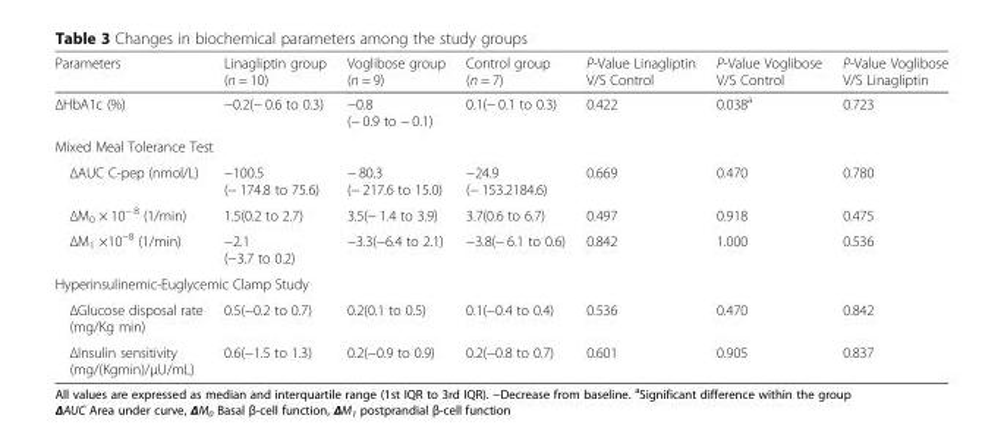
<table><thead><tr><td>Parameters</td><td>Linagliptin group (n = 10)</td><td>Voglibose group (n = 9)</td><td>Control group (n = 7)</td><td>P-Value Linagliptin V/S Control</td><td>P-Value Voglibose V/S Control</td><td>P-Value Voglibose V/S Linagliptin</td></tr></thead><tbody><tr><td>ΔHbA1c (%)</td><td>−0.2(− 0.6 to 0.3)</td><td>−0.8 (− 0.9 to − 0.1)</td><td>0.1(− 0.1 to 0.3)</td><td>0.422</td><td>0.038<sup>a</sup></td><td>0.723</td></tr><tr><td colspan="7">Mixed Meal Tolerance Test</td></tr><tr><td>ΔAUC C-pep (nmol/L)</td><td>−100.5 (− 174.8 to 75.6)</td><td>− 80.3 (− 217.6 to 15.0)</td><td>−24.9 (− 153.2184.6)</td><td>0.669</td><td>0.470</td><td>0.780</td></tr><tr><td>ΔM0 × 10− 8 (1/min)</td><td>1.5(0.2 to 2.7)</td><td>3.5(− 1.4 to 3.9)</td><td>3.7(0.6 to 6.7)</td><td>0.497</td><td>0.918</td><td>0.475</td></tr><tr><td>ΔM1 ×10−8 (1/min)</td><td>−2.1 (−3.7 to 0.2)</td><td>−3.3(−6.4 to 2.1)</td><td>−3.8(− 6.1 to 0.6)</td><td>0.842</td><td>1.000</td><td>0.536</td></tr><tr><td colspan="7">Hyperinsulinemic-Euglycemic Clamp Study</td></tr><tr><td>ΔGlucose disposal rate (mg/Kg min)</td><td>0.5(−0.2 to 0.7)</td><td>0.2(0.1 to 0.5)</td><td>0.1(−0.4 to 0.4)</td><td>0.536</td><td>0.470</td><td>0.842</td></tr><tr><td>ΔInsulin sensitivity (mg/(Kgmin)/μU/mL)</td><td>0.6(−1.5 to 1.3)</td><td>0.2(−0.9 to 0.9)</td><td>0.2(−0.8 to 0.7)</td><td>0.601</td><td>0.905</td><td>0.837</td></tr></tbody></table>